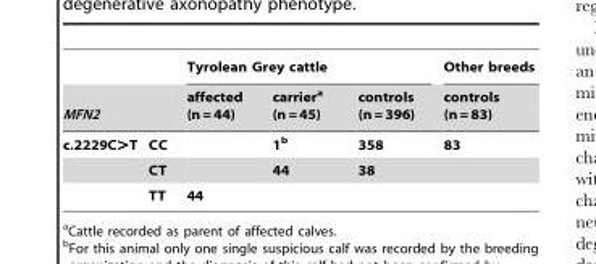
<table><thead><tr><td rowspan="2">MFN2</td><td rowspan="2"></td><td colspan="3">Tyrolean Grey cattle</td><td rowspan="2">Other breeds controls (n = 83)</td></tr><tr><td>affected (n = 44)</td><td>carrier<sup>a</sup> (n = 45)</td><td>controls (n = 396)</td></tr></thead><tbody><tr><td rowspan="3">c.2229C&gt;T</td><td>CC</td><td></td><td>1b</td><td>358</td><td>83</td></tr><tr><td>CT</td><td></td><td>44</td><td>38</td><td></td></tr><tr><td>TT</td><td>44</td><td></td><td></td><td></td></tr></tbody></table>